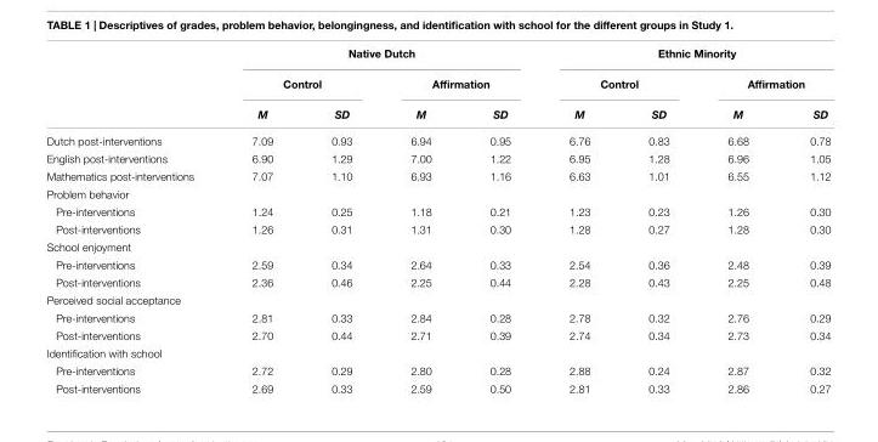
<table><thead><tr><td rowspan="3"></td><td colspan="4">Native Dutch</td><td colspan="4">Ethnic Minority</td></tr><tr><td colspan="2">Control</td><td colspan="2">Affirmation</td><td colspan="2">Control</td><td colspan="2">Affirmation</td></tr><tr><td>M</td><td>SD</td><td>M</td><td>SD</td><td>M</td><td>SD</td><td>M</td><td>SD</td></tr></thead><tbody><tr><td>Dutch post-interventions</td><td>7.09</td><td>0.93</td><td>6.94</td><td>0.95</td><td>6.76</td><td>0.83</td><td>6.68</td><td>0.78</td></tr><tr><td>English post-interventions</td><td>6.90</td><td>1.29</td><td>7.00</td><td>1.22</td><td>6.95</td><td>1.28</td><td>6.96</td><td>1.05</td></tr><tr><td>Mathematics post-interventions</td><td>7.07</td><td>1.10</td><td>6.93</td><td>1.16</td><td>6.63</td><td>1.01</td><td>6.55</td><td>1.12</td></tr><tr><td colspan="9">Problem behavior</td></tr><tr><td>Pre-interventions</td><td>1.24</td><td>0.25</td><td>1.18</td><td>0.21</td><td>1.23</td><td>0.23</td><td>1.26</td><td>0.30</td></tr><tr><td>Post-interventions</td><td>1.26</td><td>0.31</td><td>1.31</td><td>0.30</td><td>1.28</td><td>0.27</td><td>1.28</td><td>0.30</td></tr><tr><td colspan="9">School enjoyment</td></tr><tr><td>Pre-interventions</td><td>2.59</td><td>0.34</td><td>2.64</td><td>0.33</td><td>2.54</td><td>0.36</td><td>2.48</td><td>0.39</td></tr><tr><td>Post-interventions</td><td>2.36</td><td>0.46</td><td>2.25</td><td>0.44</td><td>2.28</td><td>0.43</td><td>2.25</td><td>0.48</td></tr><tr><td colspan="9">Perceived social acceptance</td></tr><tr><td>Pre-interventions</td><td>2.81</td><td>0.33</td><td>2.84</td><td>0.28</td><td>2.78</td><td>0.32</td><td>2.76</td><td>0.29</td></tr><tr><td>Post-interventions</td><td>2.70</td><td>0.44</td><td>2.71</td><td>0.39</td><td>2.74</td><td>0.34</td><td>2.73</td><td>0.34</td></tr><tr><td colspan="9">Identification with school</td></tr><tr><td>Pre-interventions</td><td>2.72</td><td>0.29</td><td>2.80</td><td>0.28</td><td>2.88</td><td>0.24</td><td>2.87</td><td>0.32</td></tr><tr><td>Post-interventions</td><td>2.69</td><td>0.33</td><td>2.59</td><td>0.50</td><td>2.81</td><td>0.33</td><td>2.86</td><td>0.27</td></tr></tbody></table>